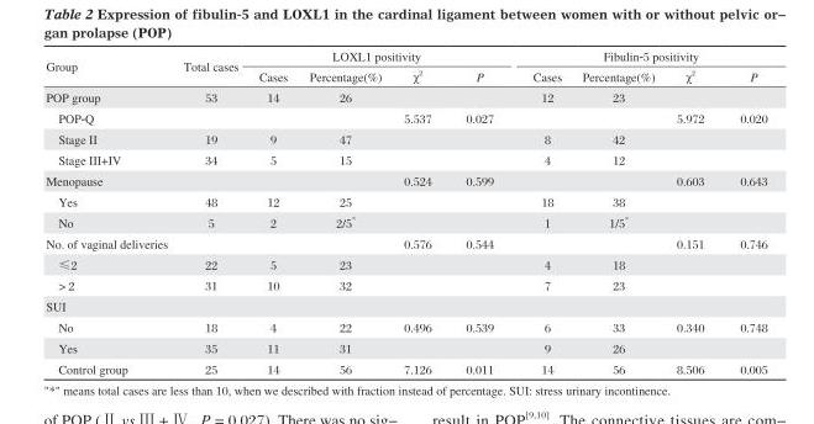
<table><thead><tr><td rowspan="2">Group</td><td rowspan="2">Total cases</td><td colspan="4">LOXL1 positivity</td><td colspan="4">Fibulin-5 positivity</td></tr><tr><td>Cases</td><td>Percentage(%)</td><td>χ<sup>2</sup></td><td>P</td><td>Cases</td><td>Percentage(%)</td><td>χ<sup>2</sup></td><td>P</td></tr></thead><tbody><tr><td>POP group</td><td>53</td><td>14</td><td>26</td><td></td><td></td><td>12</td><td>23</td><td></td><td></td></tr><tr><td>POP-Q</td><td></td><td></td><td></td><td>5.537</td><td>0.027</td><td></td><td></td><td>5.972</td><td>0.020</td></tr><tr><td>Stage II</td><td>19</td><td>9</td><td>47</td><td></td><td></td><td>8</td><td>42</td><td></td><td></td></tr><tr><td>Stage III+IV</td><td>34</td><td>5</td><td>15</td><td></td><td></td><td>4</td><td>12</td><td></td><td></td></tr><tr><td>Menopause</td><td></td><td></td><td></td><td>0.524</td><td>0.599</td><td></td><td></td><td>0.603</td><td>0.643</td></tr><tr><td>Yes</td><td>48</td><td>12</td><td>25</td><td></td><td></td><td>18</td><td>38</td><td></td><td></td></tr><tr><td>No</td><td>5</td><td>2</td><td>2/5 *</td><td></td><td></td><td>1</td><td>1/5 *</td><td></td><td></td></tr><tr><td>No. of vaginal deliveries</td><td></td><td></td><td></td><td>0.576</td><td>0.544</td><td></td><td></td><td>0.151</td><td>0.746</td></tr><tr><td>≤2</td><td>22</td><td>5</td><td>23</td><td></td><td></td><td>4</td><td>18</td><td></td><td></td></tr><tr><td>&gt; 2</td><td>31</td><td>10</td><td>32</td><td></td><td></td><td>7</td><td>23</td><td></td><td></td></tr><tr><td colspan="10">SUI</td></tr><tr><td>No</td><td>18</td><td>4</td><td>22</td><td>0.496</td><td>0.539</td><td>6</td><td>33</td><td>0.340</td><td>0.748</td></tr><tr><td>Yes</td><td>35</td><td>11</td><td>31</td><td></td><td></td><td>9</td><td>26</td><td></td><td></td></tr><tr><td>Control group</td><td>25</td><td>14</td><td>56</td><td>7.126</td><td>0.011</td><td>14</td><td>56</td><td>8.506</td><td>0.005</td></tr></tbody></table>